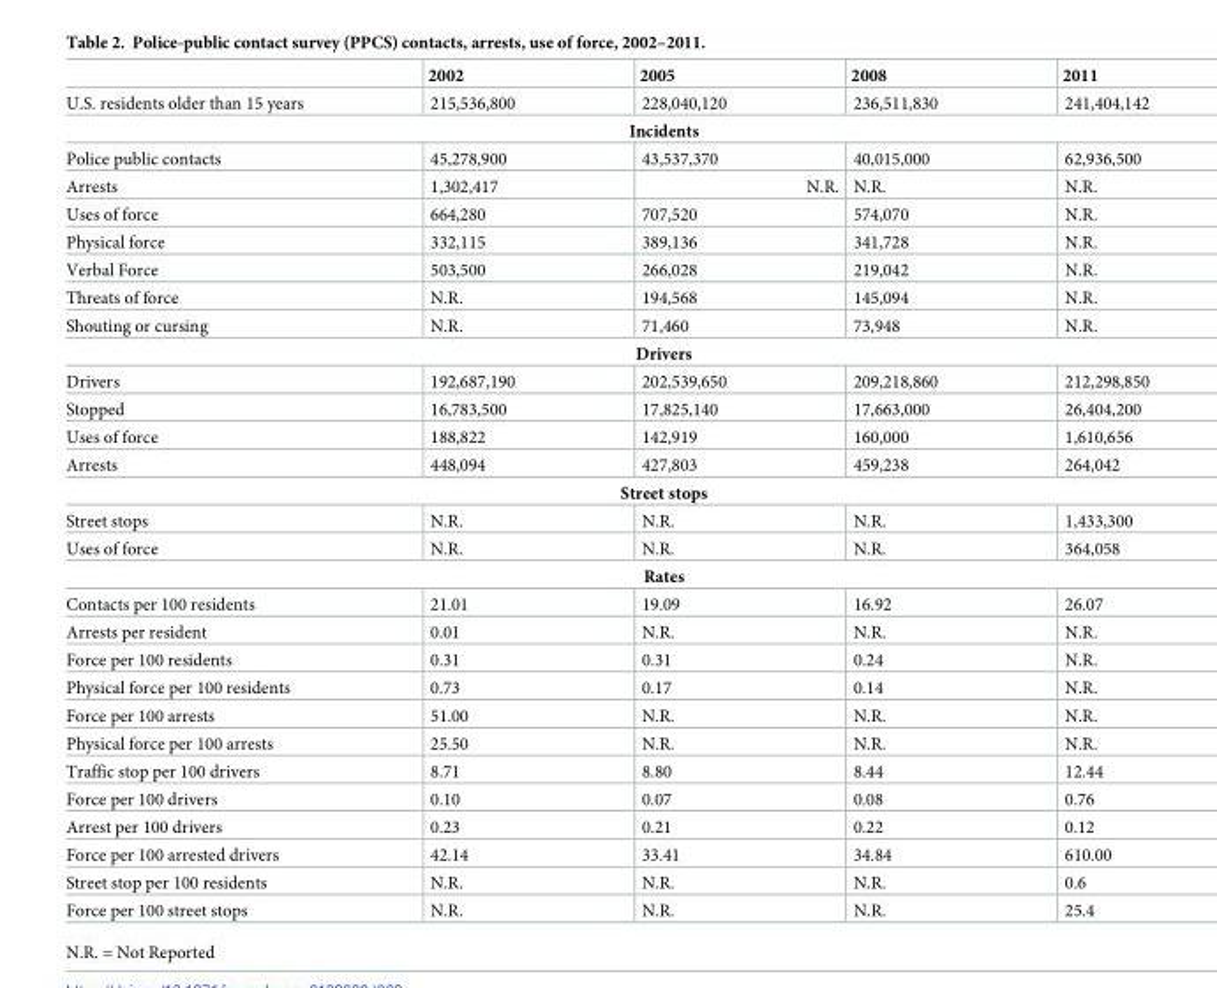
<table><thead><tr><td></td><td>2002</td><td>2005</td><td>2008</td><td>2011</td></tr></thead><tbody><tr><td>U.S. residents older than 15 years</td><td>215,536,800</td><td>228,040,120</td><td>236,511,830</td><td>241,404,142</td></tr><tr><td colspan="5">Incidents</td></tr><tr><td>Police public contacts</td><td>45,278,900</td><td>43,537,370</td><td>40,015,000</td><td>62,936,500</td></tr><tr><td>Arrests</td><td>1,302,417</td><td>N.R.</td><td>N.R.</td><td>N.R.</td></tr><tr><td>Uses of force</td><td>664,280</td><td>707,520</td><td>574,070</td><td>N.R.</td></tr><tr><td>Physical force</td><td>332,115</td><td>389,136</td><td>341,728</td><td>N.R.</td></tr><tr><td>Verbal Force</td><td>503,500</td><td>266,028</td><td>219,042</td><td>N.R.</td></tr><tr><td>Threats of force</td><td>N.R.</td><td>194,568</td><td>145,094</td><td>N.R.</td></tr><tr><td>Shouting or cursing</td><td>N.R.</td><td>71,460</td><td>73,948</td><td>N.R.</td></tr><tr><td colspan="5">Drivers</td></tr><tr><td>Drivers</td><td>192,687,190</td><td>202,539,650</td><td>209,218,860</td><td>212,298,850</td></tr><tr><td>Stopped</td><td>16,783,500</td><td>17,825,140</td><td>17,663,000</td><td>26,404,200</td></tr><tr><td>Uses of force</td><td>188,822</td><td>142,919</td><td>160,000</td><td>1,610,656</td></tr><tr><td>Arrests</td><td>448,094</td><td>427,803</td><td>459,238</td><td>264,042</td></tr><tr><td colspan="5">Street stops</td></tr><tr><td>Street stops</td><td>N.R.</td><td>N.R.</td><td>N.R.</td><td>1,433,300</td></tr><tr><td>Uses of force</td><td>N.R.</td><td>N.R.</td><td>N.R.</td><td>364,058</td></tr><tr><td colspan="5">Rates</td></tr><tr><td>Contacts per 100 residents</td><td>21.01</td><td>19.09</td><td>16.92</td><td>26.07</td></tr><tr><td>Arrests per resident</td><td>0.01</td><td>N.R.</td><td>N.R.</td><td>N.R.</td></tr><tr><td>Force per 100 residents</td><td>0.31</td><td>0.31</td><td>0.24</td><td>N.R.</td></tr><tr><td>Physical force per 100 residents</td><td>0.73</td><td>0.17</td><td>0.14</td><td>N.R.</td></tr><tr><td>Force per 100 arrests</td><td>51.00</td><td>N.R.</td><td>N.R.</td><td>N.R.</td></tr><tr><td>Physical force per 100 arrests</td><td>25.50</td><td>N.R.</td><td>N.R.</td><td>N.R.</td></tr><tr><td>Traffic stop per 100 drivers</td><td>8.71</td><td>8.80</td><td>8.44</td><td>12.44</td></tr><tr><td>Force per 100 drivers</td><td>0.10</td><td>0.07</td><td>0.08</td><td>0.76</td></tr><tr><td>Arrest per 100 drivers</td><td>0.23</td><td>0.21</td><td>0.22</td><td>0.12</td></tr><tr><td>Force per 100 arrested drivers</td><td>42.14</td><td>33.41</td><td>34.84</td><td>610.00</td></tr><tr><td>Street stop per 100 residents</td><td>N.R.</td><td>N.R.</td><td>N.R.</td><td>0.6</td></tr><tr><td>Force per 100 street stops</td><td>N.R.</td><td>N.R.</td><td>N.R.</td><td>25.4</td></tr></tbody></table>